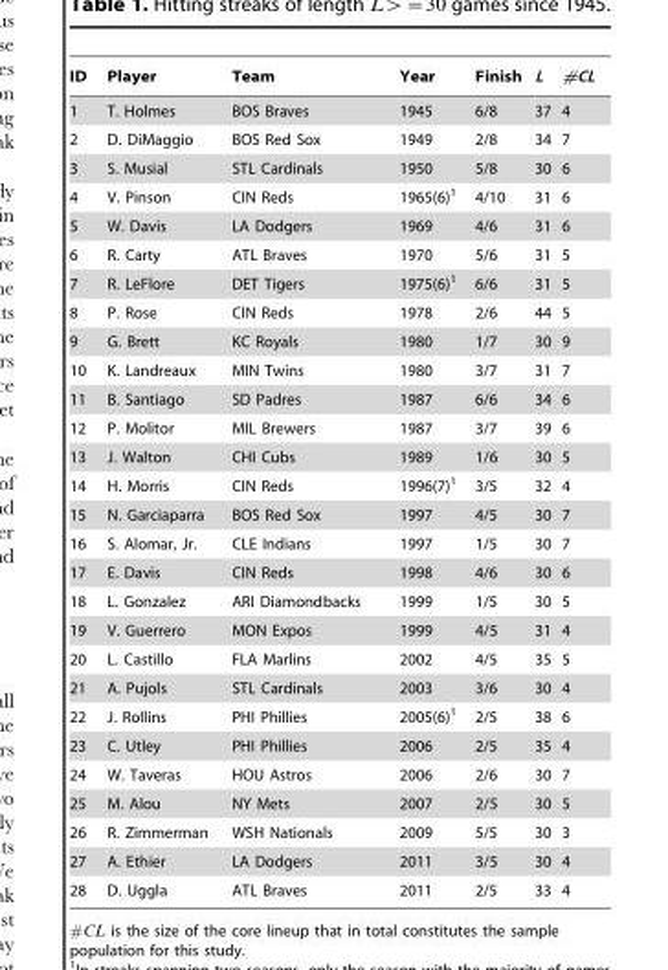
<table><thead><tr><td>ID</td><td>Player</td><td>Team</td><td>Year</td><td>Finish</td><td>L</td><td>#CL</td></tr></thead><tbody><tr><td>1</td><td>T. Holmes</td><td>BOS Braves</td><td>1945</td><td>6/8</td><td>37</td><td>4</td></tr><tr><td>2</td><td>D. DiMaggio</td><td>BOS Red Sox</td><td>1949</td><td>2/8</td><td>34</td><td>7</td></tr><tr><td>3</td><td>S. Musial</td><td>STL Cardinals</td><td>1950</td><td>5/8</td><td>30</td><td>6</td></tr><tr><td>4</td><td>V. Pinson</td><td>CIN Reds</td><td>1965(6)<sup>1</sup></td><td>4/10</td><td>31</td><td>6</td></tr><tr><td>5</td><td>W. Davis</td><td>LA Dodgers</td><td>1969</td><td>4/6</td><td>31</td><td>6</td></tr><tr><td>6</td><td>R. Carty</td><td>ATL Braves</td><td>1970</td><td>5/6</td><td>31</td><td>5</td></tr><tr><td>7</td><td>R. LeFlore</td><td>DET Tigers</td><td>1975(6)<sup>1</sup></td><td>6/6</td><td>31</td><td>5</td></tr><tr><td>8</td><td>P. Rose</td><td>CIN Reds</td><td>1978</td><td>2/6</td><td>44</td><td>5</td></tr><tr><td>9</td><td>G. Brett</td><td>KC Royals</td><td>1980</td><td>1/7</td><td>30</td><td>9</td></tr><tr><td>10</td><td>K. Landreaux</td><td>MIN Twins</td><td>1980</td><td>3/7</td><td>31</td><td>7</td></tr><tr><td>11</td><td>B. Santiago</td><td>SD Padres</td><td>1987</td><td>6/6</td><td>34</td><td>6</td></tr><tr><td>12</td><td>P. Molitor</td><td>MIL Brewers</td><td>1987</td><td>3/7</td><td>39</td><td>6</td></tr><tr><td>13</td><td>J. Walton</td><td>CHI Cubs</td><td>1989</td><td>1/6</td><td>30</td><td>5</td></tr><tr><td>14</td><td>H. Morris</td><td>CIN Reds</td><td>1996(7)<sup>1</sup></td><td>3/5</td><td>32</td><td>4</td></tr><tr><td>15</td><td>N. Garciaparra</td><td>BOS Red Sox</td><td>1997</td><td>4/5</td><td>30</td><td>7</td></tr><tr><td>16</td><td>S. Alomar, Jr.</td><td>CLE Indians</td><td>1997</td><td>1/5</td><td>30</td><td>7</td></tr><tr><td>17</td><td>E. Davis</td><td>CIN Reds</td><td>1998</td><td>4/6</td><td>30</td><td>6</td></tr><tr><td>18</td><td>L. Gonzalez</td><td>ARI Diamondbacks</td><td>1999</td><td>1/5</td><td>30</td><td>5</td></tr><tr><td>19</td><td>V. Guerrero</td><td>MON Expos</td><td>1999</td><td>4/5</td><td>31</td><td>4</td></tr><tr><td>20</td><td>L. Castillo</td><td>FLA Marlins</td><td>2002</td><td>4/5</td><td>35</td><td>5</td></tr><tr><td>21</td><td>A. Pujols</td><td>STL Cardinals</td><td>2003</td><td>3/6</td><td>30</td><td>4</td></tr><tr><td>22</td><td>J. Rollins</td><td>PHI Phillies</td><td>2005(6)<sup>1</sup></td><td>2/5</td><td>38</td><td>6</td></tr><tr><td>23</td><td>C. Utley</td><td>PHI Phillies</td><td>2006</td><td>2/5</td><td>35</td><td>4</td></tr><tr><td>24</td><td>W. Taveras</td><td>HOU Astros</td><td>2006</td><td>2/6</td><td>30</td><td>7</td></tr><tr><td>25</td><td>M. Alou</td><td>NY Mets</td><td>2007</td><td>2/5</td><td>30</td><td>5</td></tr><tr><td>26</td><td>R. Zimmerman</td><td>WSH Nationals</td><td>2009</td><td>5/5</td><td>30</td><td>3</td></tr><tr><td>27</td><td>A. Ethier</td><td>LA Dodgers</td><td>2011</td><td>3/5</td><td>30</td><td>4</td></tr><tr><td>28</td><td>D. Uggla</td><td>ATL Braves</td><td>2011</td><td>2/5</td><td>33</td><td>4</td></tr></tbody></table>